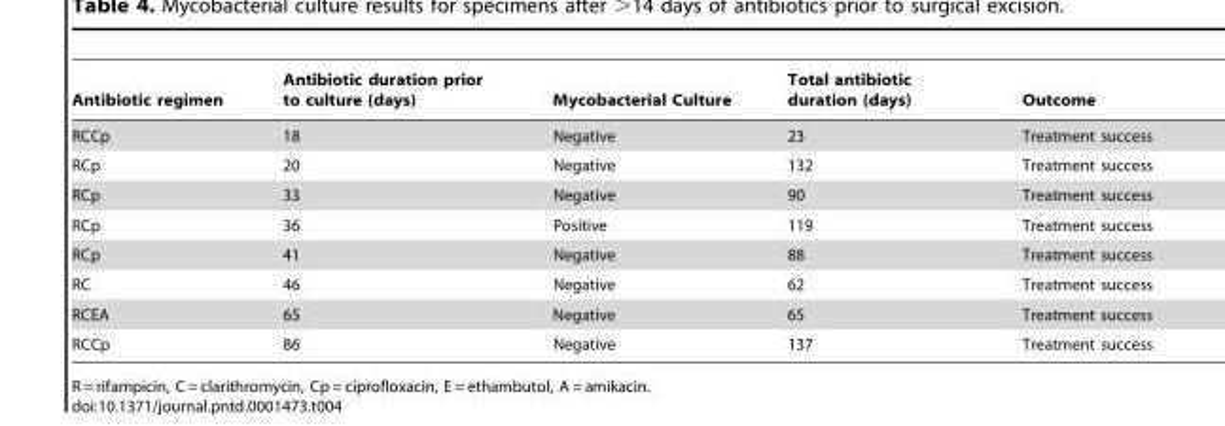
<table><thead><tr><td>Antibiotic regimen</td><td>Antibiotic duration prior to culture (days)</td><td>Mycobacterial Culture</td><td>Total antibiotic duration (days)</td><td>Outcome</td></tr></thead><tbody><tr><td>RCCp</td><td>18</td><td>Negative</td><td>23</td><td>Treatment success</td></tr><tr><td>RCp</td><td>20</td><td>Negative</td><td>132</td><td>Treatment success</td></tr><tr><td>RCp</td><td>33</td><td>Negative</td><td>90</td><td>Treatment success</td></tr><tr><td>RCp</td><td>36</td><td>Positive</td><td>119</td><td>Treatment success</td></tr><tr><td>RCp</td><td>41</td><td>Negative</td><td>88</td><td>Treatment success</td></tr><tr><td>RC</td><td>46</td><td>Negative</td><td>62</td><td>Treatment success</td></tr><tr><td>RCEA</td><td>65</td><td>Negative</td><td>65</td><td>Treatment success</td></tr><tr><td>RCCp</td><td>86</td><td>Negative</td><td>137</td><td>Treatment success</td></tr></tbody></table>